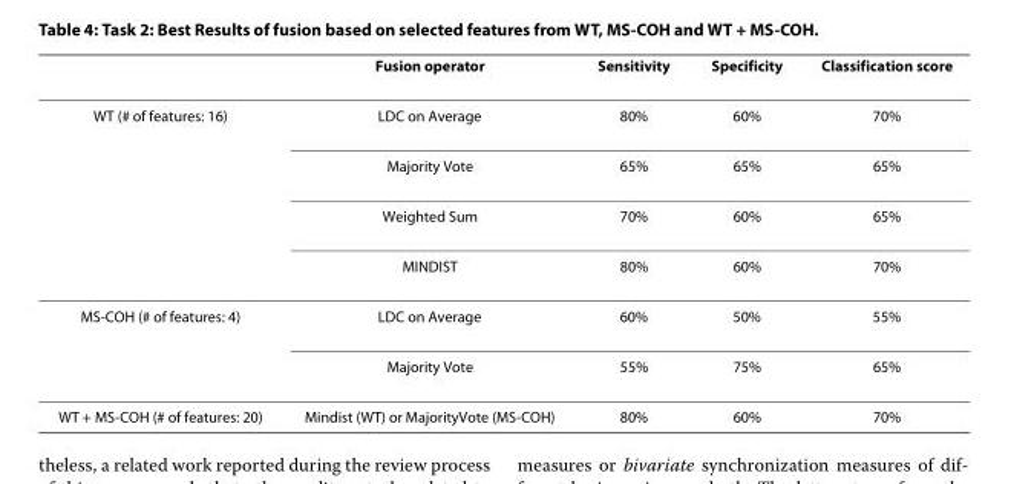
<table><thead><tr><td></td><td>Fusion operator</td><td>Sensitivity</td><td>Specificity</td><td>Classification score</td></tr></thead><tbody><tr><td rowspan="4">WT (# of features: 16)</td><td>LDC on Average</td><td>80%</td><td>60%</td><td>70%</td></tr><tr><td>Majority Vote</td><td>65%</td><td>65%</td><td>65%</td></tr><tr><td>Weighted Sum</td><td>70%</td><td>60%</td><td>65%</td></tr><tr><td>MINDIST</td><td>80%</td><td>60%</td><td>70%</td></tr><tr><td rowspan="2">MS-COH (# of features: 4)</td><td>LDC on Average</td><td>60%</td><td>50%</td><td>55%</td></tr><tr><td>Majority Vote</td><td>55%</td><td>75%</td><td>65%</td></tr><tr><td>WT + MS-COH (# of features: 20)</td><td>Mindist (WT) or MajorityVote (MS-COH)</td><td>80%</td><td>60%</td><td>70%</td></tr></tbody></table>